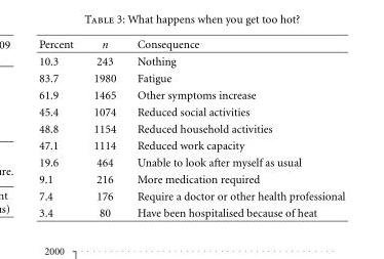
<table><thead><tr><td>Percent</td><td>n</td><td>Consequence</td></tr></thead><tbody><tr><td>10.3</td><td>243</td><td>Nothing</td></tr><tr><td>83.7</td><td>1980</td><td>Fatigue</td></tr><tr><td>61.9</td><td>1465</td><td>Other symptoms increase</td></tr><tr><td>45.4</td><td>1074</td><td>Reduced social activities</td></tr><tr><td>48.8</td><td>1154</td><td>Reduced household activities</td></tr><tr><td>47.1</td><td>1114</td><td>Reduced work capacity</td></tr><tr><td>19.6</td><td>464</td><td>Unable to look after myself as usual</td></tr><tr><td>9.1</td><td>216</td><td>More medication required</td></tr><tr><td>7.4</td><td>176</td><td>Require a doctor or other health professional</td></tr><tr><td>3.4</td><td>80</td><td>Have been hospitalised because of heat</td></tr></tbody></table>